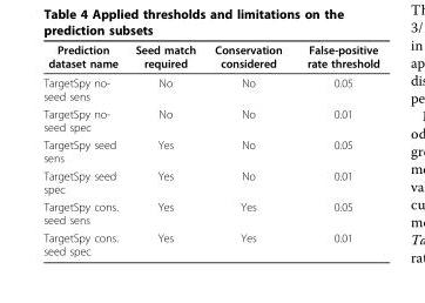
<table><thead><tr><td>Prediction dataset name</td><td>Seed match required</td><td>Conservation considered</td><td>False-positive rate threshold</td></tr></thead><tbody><tr><td>TargetSpy no- seed sens</td><td>No</td><td>No</td><td>0.05</td></tr><tr><td>TargetSpy no- seed spec</td><td>No</td><td>No</td><td>0.01</td></tr><tr><td>TargetSpy seed sens</td><td>Yes</td><td>No</td><td>0.05</td></tr><tr><td>TargetSpy seed spec</td><td>Yes</td><td>No</td><td>0.01</td></tr><tr><td>TargetSpy cons. seed sens</td><td>Yes</td><td>Yes</td><td>0.05</td></tr><tr><td>TargetSpy cons. seed spec</td><td>Yes</td><td>Yes</td><td>0.01</td></tr></tbody></table>